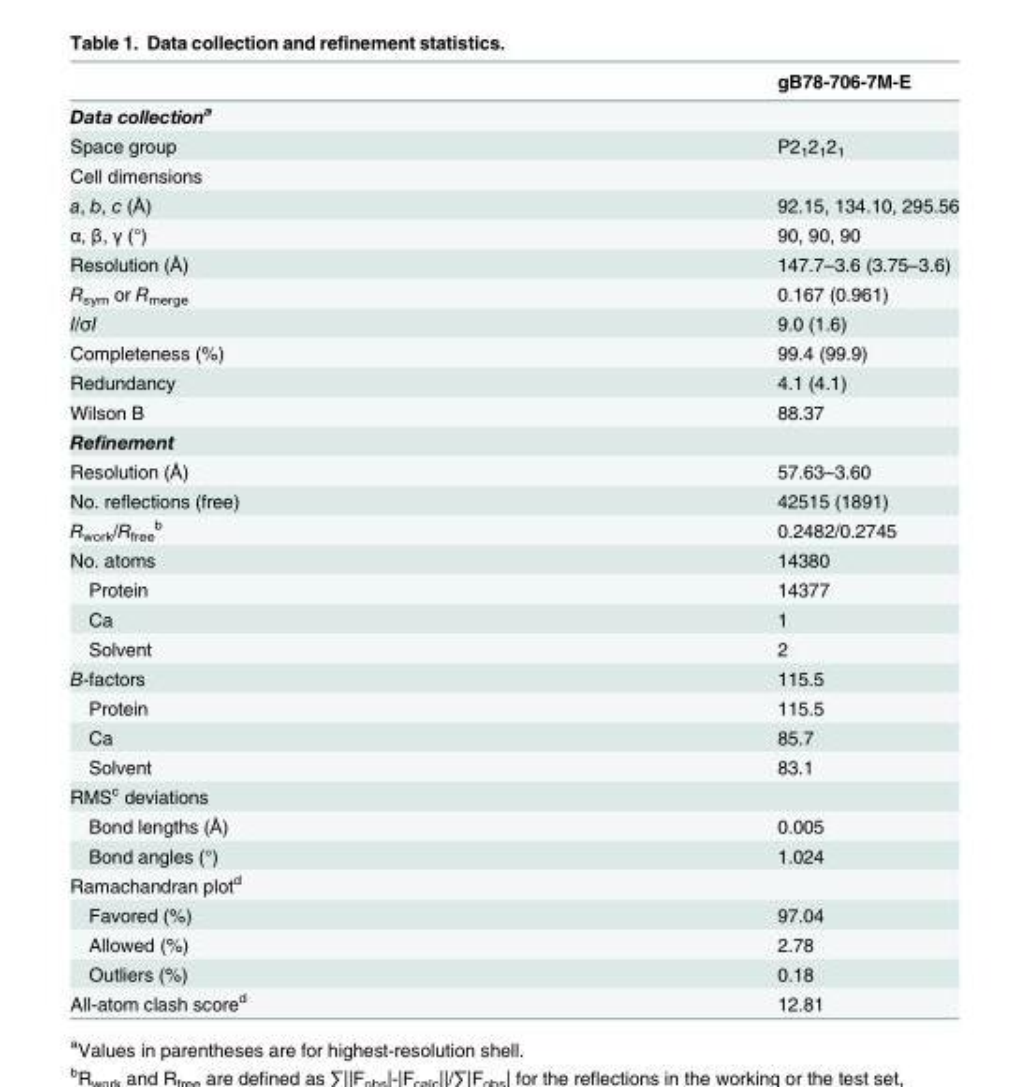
<table><thead><tr><td></td><td>gB78-706-7M-E</td></tr></thead><tbody><tr><td colspan="2">Data collection<sup>a</sup></td></tr><tr><td>Space group</td><td>P2<sub>1</sub>2<sub>1</sub>2<sub>1</sub></td></tr><tr><td colspan="2">Cell dimensions</td></tr><tr><td>a, b, c (Å)</td><td>92.15, 134.10, 295.56</td></tr><tr><td>α, β, γ (°)</td><td>90, 90, 90</td></tr><tr><td>Resolution (Å)</td><td>147.7–3.6 (3.75–3.6)</td></tr><tr><td>R<sub>sym</sub> or R<sub>merge</sub></td><td>0.167 (0.961)</td></tr><tr><td>I/σI</td><td>9.0 (1.6)</td></tr><tr><td>Completeness (%)</td><td>99.4 (99.9)</td></tr><tr><td>Redundancy</td><td>4.1 (4.1)</td></tr><tr><td>Wilson B</td><td>88.37</td></tr><tr><td colspan="2">Refinement</td></tr><tr><td>Resolution (Å)</td><td>57.63–3.60</td></tr><tr><td>No. reflections (free)</td><td>42515 (1891)</td></tr><tr><td>R<sub>work</sub>/R<sub>free</sub> <sup>b</sup></td><td>0.2482/0.2745</td></tr><tr><td>No. atoms</td><td>14380</td></tr><tr><td>Protein</td><td>14377</td></tr><tr><td>Ca</td><td>1</td></tr><tr><td>Solvent</td><td>2</td></tr><tr><td>B-factors</td><td>115.5</td></tr><tr><td>Protein</td><td>115.5</td></tr><tr><td>Ca</td><td>85.7</td></tr><tr><td>Solvent</td><td>83.1</td></tr><tr><td colspan="2">RMS<sup>c</sup> deviations</td></tr><tr><td>Bond lengths (Å)</td><td>0.005</td></tr><tr><td>Bond angles (°)</td><td>1.024</td></tr><tr><td colspan="2">Ramachandran plot<sup>d</sup></td></tr><tr><td>Favored (%)</td><td>97.04</td></tr><tr><td>Allowed (%)</td><td>2.78</td></tr><tr><td>Outliers (%)</td><td>0.18</td></tr><tr><td>All-atom clash score<sup>d</sup></td><td>12.81</td></tr></tbody></table>